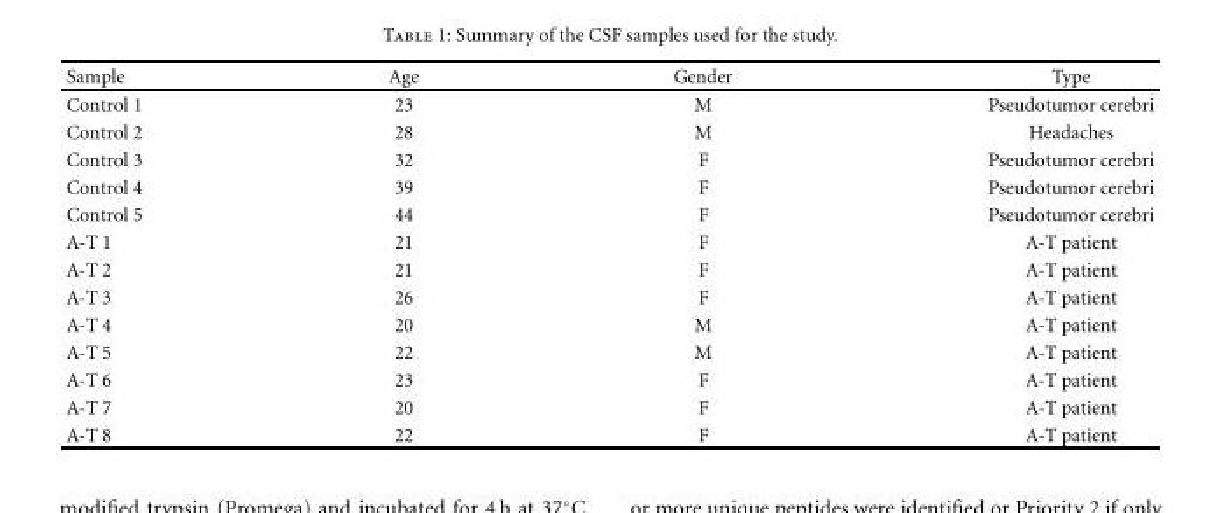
<table><thead><tr><td>Sample</td><td>Age</td><td>Gender</td><td>Type</td></tr></thead><tbody><tr><td>Control 1</td><td>23</td><td>M</td><td>Pseudotumor cerebri</td></tr><tr><td>Control 2</td><td>28</td><td>M</td><td>Headaches</td></tr><tr><td>Control 3</td><td>32</td><td>F</td><td>Pseudotumor cerebri</td></tr><tr><td>Control 4</td><td>39</td><td>F</td><td>Pseudotumor cerebri</td></tr><tr><td>Control 5</td><td>44</td><td>F</td><td>Pseudotumor cerebri</td></tr><tr><td>A-T 1</td><td>21</td><td>F</td><td>A-T patient</td></tr><tr><td>A-T 2</td><td>21</td><td>F</td><td>A-T patient</td></tr><tr><td>A-T 3</td><td>26</td><td>F</td><td>A-T patient</td></tr><tr><td>A-T 4</td><td>20</td><td>M</td><td>A-T patient</td></tr><tr><td>A-T 5</td><td>22</td><td>M</td><td>A-T patient</td></tr><tr><td>A-T 6</td><td>23</td><td>F</td><td>A-T patient</td></tr><tr><td>A-T 7</td><td>20</td><td>F</td><td>A-T patient</td></tr><tr><td>A-T 8</td><td>22</td><td>F</td><td>A-T patient</td></tr></tbody></table>